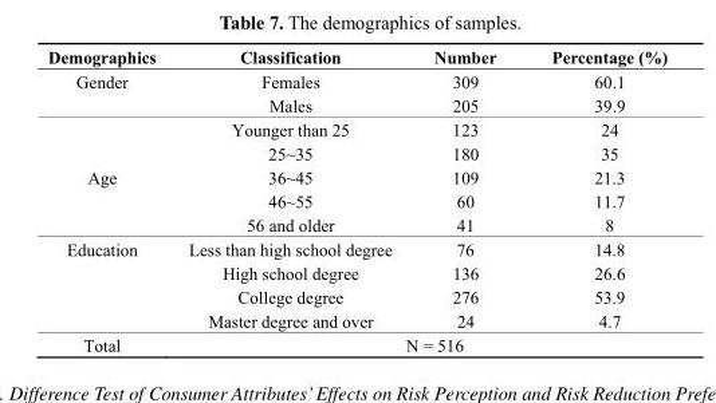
<table><thead><tr><td>Demographics</td><td>Classification</td><td>Number</td><td>Percentage (%)</td></tr></thead><tbody><tr><td rowspan="2">Gender</td><td>Females</td><td>309</td><td>60.1</td></tr><tr><td>Males</td><td>205</td><td>39.9</td></tr><tr><td rowspan="5">Age</td><td>Younger than 25</td><td>123</td><td>24</td></tr><tr><td>25~35</td><td>180</td><td>35</td></tr><tr><td>36~45</td><td>109</td><td>21.3</td></tr><tr><td>46~55</td><td>60</td><td>11.7</td></tr><tr><td>56 and older</td><td>41</td><td>8</td></tr><tr><td rowspan="4">Education</td><td>Less than high school degree</td><td>76</td><td>14.8</td></tr><tr><td>High school degree</td><td>136</td><td>26.6</td></tr><tr><td>College degree</td><td>276</td><td>53.9</td></tr><tr><td>Master degree and over</td><td>24</td><td>4.7</td></tr><tr><td>Total</td><td colspan="3">N = 516</td></tr></tbody></table>